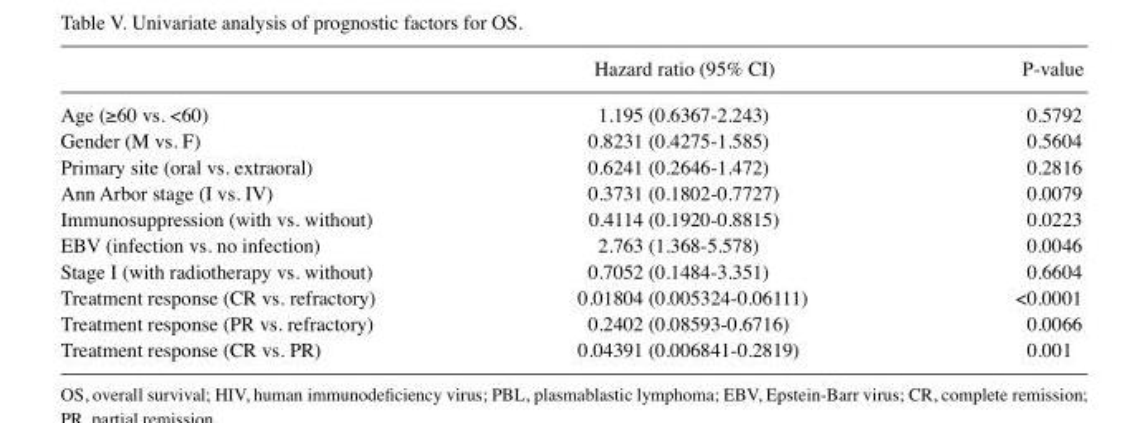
<table><thead><tr><td></td><td>Hazard ratio (95% CI)</td><td>P-value</td></tr></thead><tbody><tr><td>Age (≥60 vs. &lt;60)</td><td>1.195 (0.6367-2.243)</td><td>0.5792</td></tr><tr><td>gender (M vs. F)</td><td>0.8231 (0.4275-1.585)</td><td>0.5604</td></tr><tr><td>Primary site (oral vs. extraoral)</td><td>0.6241 (0.2646-1.472)</td><td>0.2816</td></tr><tr><td>Ann Arbor stage (Ⅰ vs. Ⅳ)</td><td>0.3731 (0.1802-0.7727)</td><td>0.0079</td></tr><tr><td>Immunosuppression (with vs. without)</td><td>0.4114 (0.1920-0.8815)</td><td>0.0223</td></tr><tr><td>EBV (infection vs. no infection)</td><td>2.763 (1.368-5.578)</td><td>0.0046</td></tr><tr><td>Stage Ⅰ (with radiotherapy vs. without)</td><td>0.7052 (0.1484-3.351)</td><td>0.6604</td></tr><tr><td>Treatment response (CR vs. refractory)</td><td>0.01804 (0.005324-0.06111)</td><td>&lt;0.0001</td></tr><tr><td>Treatment response (PR vs. refractory)</td><td>0.2402 (0.08593-0.6716)</td><td>0.0066</td></tr><tr><td>Treatment response (CR vs. PR)</td><td>0.04391 (0.006841-0.2819)</td><td>0.001</td></tr></tbody></table>